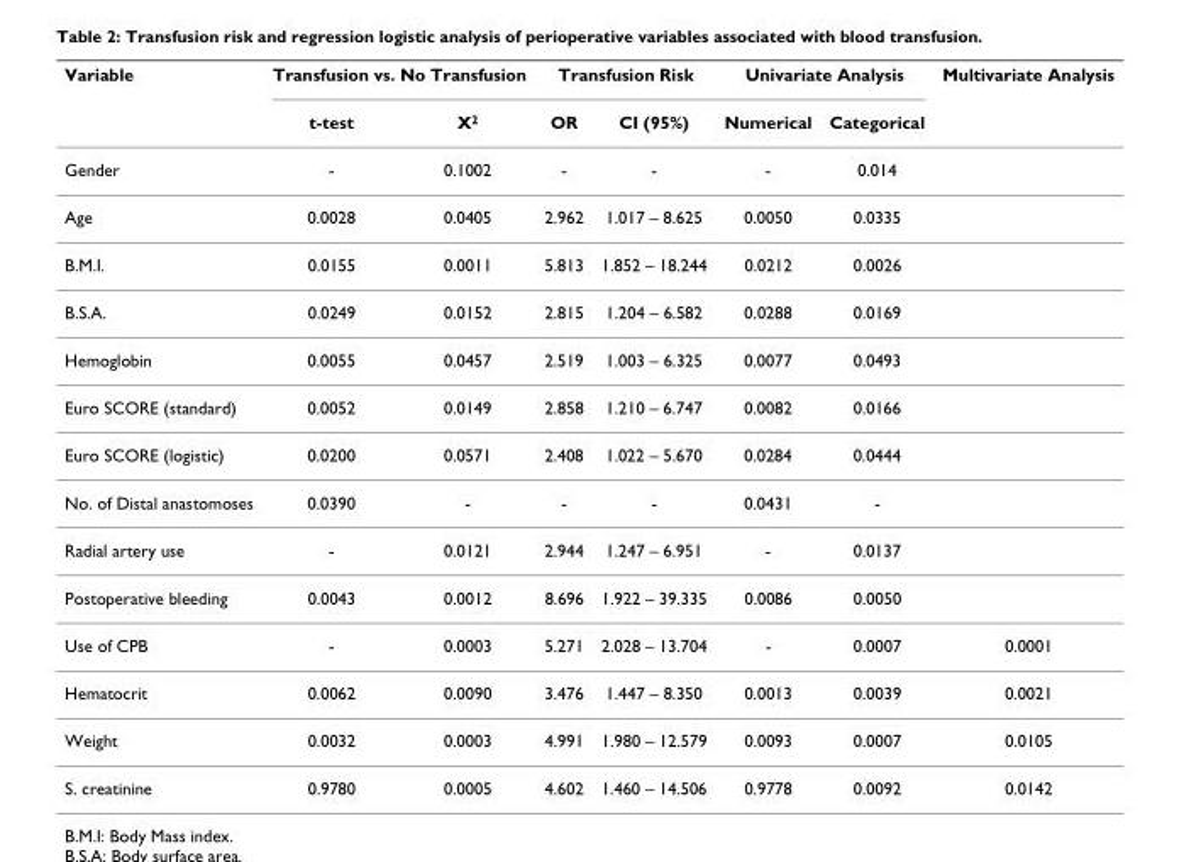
<table><thead><tr><td rowspan="2">Variable</td><td colspan="2">Transfusion vs. No Transfusion</td><td colspan="2">Transfusion Risk</td><td colspan="2">Univariate Analysis</td><td rowspan="2">Multivariate Analysis</td></tr><tr><td>t-test</td><td>X<sup>2</sup></td><td>OR</td><td>CI (95%)</td><td>Numerical</td><td>Categorical</td></tr></thead><tbody><tr><td>Gender</td><td>-</td><td>0.1002</td><td>-</td><td>-</td><td>-</td><td>0.014</td><td></td></tr><tr><td>Age</td><td>0.0028</td><td>0.0405</td><td>2.962</td><td>1.017 – 8.625</td><td>0.0050</td><td>0.0335</td><td></td></tr><tr><td>B.M.I.</td><td>0.0155</td><td>0.0011</td><td>5.813</td><td>1.852 – 18.244</td><td>0.0212</td><td>0.0026</td><td></td></tr><tr><td>B.S.A.</td><td>0.0249</td><td>0.0152</td><td>2.815</td><td>1.204 – 6.582</td><td>0.0288</td><td>0.0169</td><td></td></tr><tr><td>Hemoglobin</td><td>0.0055</td><td>0.0457</td><td>2.519</td><td>1.003 – 6.325</td><td>0.0077</td><td>0.0493</td><td></td></tr><tr><td>Euro SCORE (standard)</td><td>0.0052</td><td>0.0149</td><td>2.858</td><td>1.210 – 6.747</td><td>0.0082</td><td>0.0166</td><td></td></tr><tr><td>Euro SCORE (logistic)</td><td>0.0200</td><td>0.0571</td><td>2.408</td><td>1.022 – 5.670</td><td>0.0284</td><td>0.0444</td><td></td></tr><tr><td>No. of Distal anastomoses</td><td>0.0390</td><td>-</td><td>-</td><td>-</td><td>0.0431</td><td>-</td><td></td></tr><tr><td>Radial artery use</td><td>-</td><td>0.0121</td><td>2.944</td><td>1.247 – 6.951</td><td>-</td><td>0.0137</td><td></td></tr><tr><td>Postoperative bleeding</td><td>0.0043</td><td>0.0012</td><td>8.696</td><td>1.922 – 39.335</td><td>0.0086</td><td>0.0050</td><td></td></tr><tr><td>Use of CPB</td><td>-</td><td>0.0003</td><td>5.271</td><td>2.028 – 13.704</td><td>-</td><td>0.0007</td><td>0.0001</td></tr><tr><td>Hematocrit</td><td>0.0062</td><td>0.0090</td><td>3.476</td><td>1.447 – 8.350</td><td>0.0013</td><td>0.0039</td><td>0.0021</td></tr><tr><td>Weight</td><td>0.0032</td><td>0.0003</td><td>4.991</td><td>1.980 – 12.579</td><td>0.0093</td><td>0.0007</td><td>0.0105</td></tr><tr><td>S. creatinine</td><td>0.9780</td><td>0.0005</td><td>4.602</td><td>1.460 – 14.506</td><td>0.9778</td><td>0.0092</td><td>0.0142</td></tr></tbody></table>